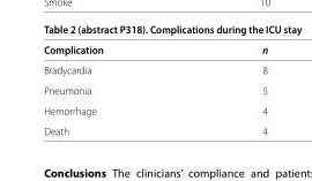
<table><thead><tr><td>Complication</td><td>n</td></tr></thead><tbody><tr><td>Bradycardia</td><td>8</td></tr><tr><td>Pneumonia</td><td>5</td></tr><tr><td>Hemorrhage</td><td>4</td></tr><tr><td>Death</td><td>4</td></tr></tbody></table>